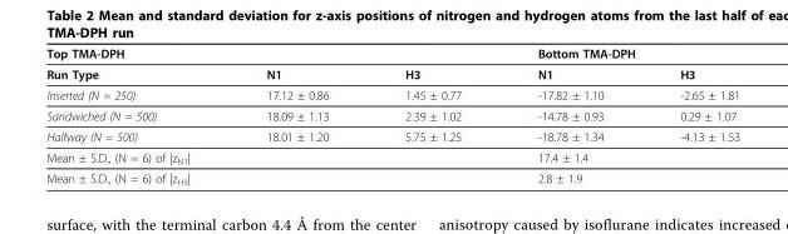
<table><thead><tr><td rowspan="2">Top TMA-DPH Run Type</td><td rowspan="2">N1</td><td rowspan="2">H3</td><td colspan="2">Bottom TMA-DPH</td></tr><tr><td>N1</td><td>H3</td></tr></thead><tbody><tr><td>Inserted (N = 250)</td><td>17.12 ± 0.86</td><td>1.45 ± 0.77</td><td>-17.82 ± 1.10</td><td>-2.65 ± 1.81</td></tr><tr><td>Sandwiched (N = 500)</td><td>18.09 ± 1.13</td><td>2.39 ± 1.02</td><td>-14.78 ± 0.93</td><td>0.29 ± 1.07</td></tr><tr><td>Halfway (N = 500)</td><td>18.01 ± 1.20</td><td>5.75 ± 1.25</td><td>-18.78 ± 1.34</td><td>-4.13 ± 1.53</td></tr><tr><td>Mean ± S.D., (N = 6) of |z<sub>N1</sub>|</td><td></td><td></td><td>17.4 ± 1.4</td><td></td></tr><tr><td>Mean ± S.D., (N = 6) of |z<sub>H3</sub>|</td><td></td><td></td><td>2.8 ± 1.9</td><td></td></tr></tbody></table>